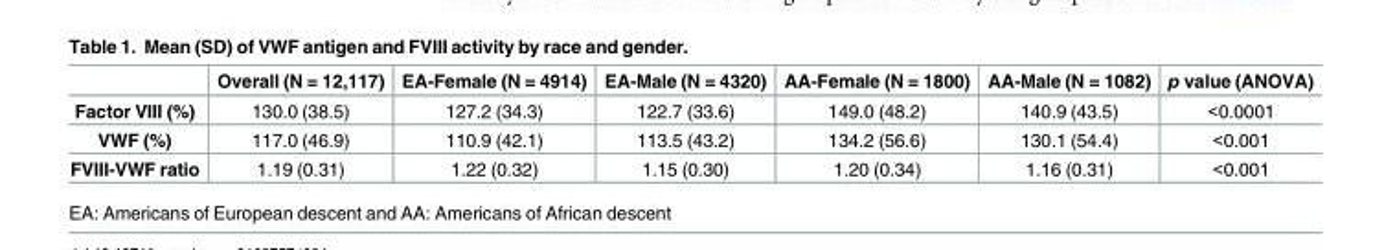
<table><thead><tr><td></td><td>Overall (N = 12,117)</td><td>EA-Female (N = 4914)</td><td>EA-Male (N = 4320)</td><td>AA-Female (N = 1800)</td><td>AA-Male (N = 1082)</td><td>p value (ANOVA)</td></tr></thead><tbody><tr><td>Factor VIII (%)</td><td>130.0 (38.5)</td><td>127.2 (34.3)</td><td>122.7 (33.6)</td><td>149.0 (48.2)</td><td>140.9 (43.5)</td><td>&lt;0.0001</td></tr><tr><td>VWF (%)</td><td>117.0 (46.9)</td><td>110.9 (42.1)</td><td>113.5 (43.2)</td><td>134.2 (56.6)</td><td>130.1 (54.4)</td><td>&lt;0.001</td></tr><tr><td>FVIII-VWF ratio</td><td>1.19 (0.31)</td><td>1.22 (0.32)</td><td>1.15 (0.30)</td><td>1.20 (0.34)</td><td>1.16 (0.31)</td><td>&lt;0.001</td></tr></tbody></table>